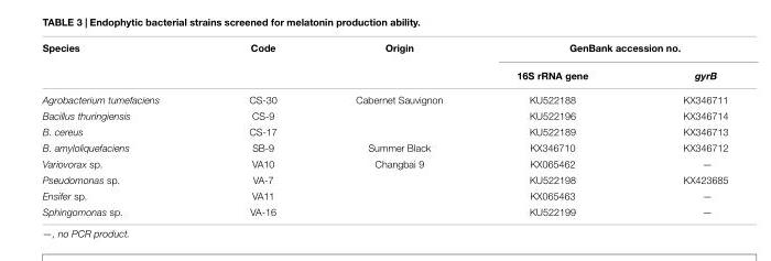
<table><thead><tr><td rowspan="2">Species</td><td rowspan="2">Code</td><td rowspan="2">Origin</td><td colspan="2">GenBank accession no.</td></tr><tr><td>16S rRNA gene</td><td>gyrB</td></tr></thead><tbody><tr><td>Agrobacterium tumefaciens</td><td>CS-30</td><td>Cabernet Sauvignon</td><td>KU522188</td><td>KX346711</td></tr><tr><td>Bacillus thuringiensis</td><td>CS-9</td><td></td><td>KU522196</td><td>KX346714</td></tr><tr><td>B. cereus</td><td>CS-17</td><td></td><td>KU522189</td><td>KX346713</td></tr><tr><td>B. amyloliquefaciens</td><td>SB-9</td><td>Summer Black</td><td>KX346710</td><td>KX346712</td></tr><tr><td>Variovorax sp.</td><td>VA10</td><td>Changbai 9</td><td>KX065462</td><td>—</td></tr><tr><td>Pseudomonas sp.</td><td>VA-7</td><td></td><td>KU522198</td><td>KX423685</td></tr><tr><td>Ensifer sp.</td><td>VA11</td><td></td><td>KX065463</td><td>—</td></tr><tr><td>Sphingomonas sp.</td><td>VA-16</td><td></td><td>KU522199</td><td>—</td></tr></tbody></table>